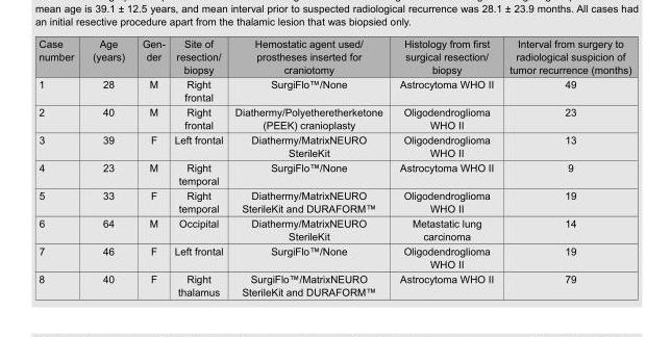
<table><thead><tr><td>Case number</td><td>Age (years)</td><td>Gen- der</td><td>Site of resection/ biopsy</td><td>Hemostatic agent used/ prostheses inserted for craniotomy</td><td>Histology from first surgical resection/ biopsy</td><td>Interval from surgery to radiological suspicion of tumor recurrence (months)</td></tr></thead><tbody><tr><td>1</td><td>28</td><td>M</td><td>Right frontal</td><td>SurgiFlo™/None</td><td>Astrocytoma WHO II</td><td>49</td></tr><tr><td>2</td><td>40</td><td>M</td><td>Right frontal</td><td>Diathermy/Polyetheretherketone (PEEK) cranioplasty</td><td>Oligodendroglioma WHO II</td><td>23</td></tr><tr><td>3</td><td>39</td><td>F</td><td>Left frontal</td><td>Diathermy/MatrixNEURO SterileKit</td><td>Oligodendroglioma WHO II</td><td>13</td></tr><tr><td>4</td><td>23</td><td>M</td><td>Right temporal</td><td>SurgiFlo™/None</td><td>Astrocytoma WHO II</td><td>9</td></tr><tr><td>5</td><td>33</td><td>F</td><td>Right temporal</td><td>Diathermy/MatrixNEURO SterileKit and DURAFORM™</td><td>Oligodendroglioma WHO II</td><td>19</td></tr><tr><td>6</td><td>64</td><td>M</td><td>Occipital</td><td>Diathermy/MatrixNEURO SterileKit</td><td>Metastatic lung carcinoma</td><td>14</td></tr><tr><td>7</td><td>46</td><td>F</td><td>Left frontal</td><td>SurgiFlo™/None</td><td>Oligodendroglioma WHO II</td><td>19</td></tr><tr><td>8</td><td>40</td><td>F</td><td>Right thalamus</td><td>SurgiFlo™/MatrixNEURO SterileKit and DURAFORM™</td><td>Astrocytoma WHO II</td><td>79</td></tr></tbody></table>